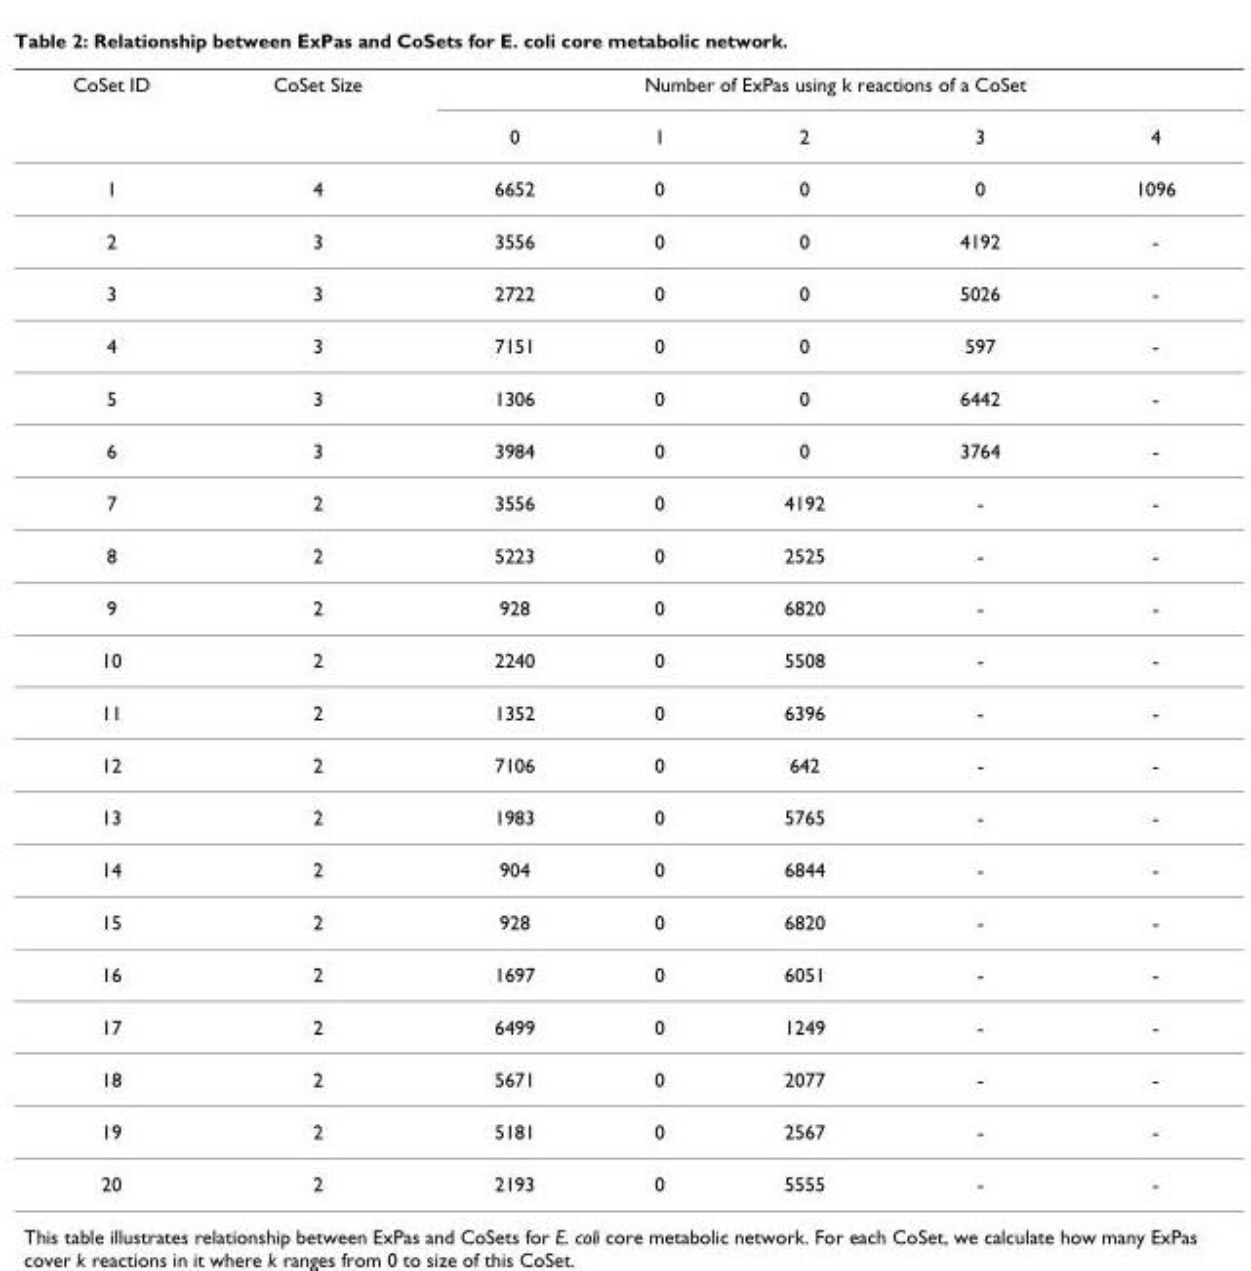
<table><thead><tr><td rowspan="2">CoSet ID</td><td rowspan="2">CoSet Size</td><td colspan="5">Number of ExPas using k reactions of a CoSet</td></tr><tr><td>0</td><td>1</td><td>2</td><td>3</td><td>4</td></tr></thead><tbody><tr><td>1</td><td>4</td><td>6652</td><td>0</td><td>0</td><td>0</td><td>1096</td></tr><tr><td>2</td><td>3</td><td>3556</td><td>0</td><td>0</td><td>4192</td><td>-</td></tr><tr><td>3</td><td>3</td><td>2722</td><td>0</td><td>0</td><td>5026</td><td>-</td></tr><tr><td>4</td><td>3</td><td>7151</td><td>0</td><td>0</td><td>597</td><td>-</td></tr><tr><td>5</td><td>3</td><td>1306</td><td>0</td><td>0</td><td>6442</td><td>-</td></tr><tr><td>6</td><td>3</td><td>3984</td><td>0</td><td>0</td><td>3764</td><td>-</td></tr><tr><td>7</td><td>2</td><td>3556</td><td>0</td><td>4192</td><td>-</td><td>-</td></tr><tr><td>8</td><td>2</td><td>5223</td><td>0</td><td>2525</td><td>-</td><td>-</td></tr><tr><td>9</td><td>2</td><td>928</td><td>0</td><td>6820</td><td>-</td><td>-</td></tr><tr><td>10</td><td>2</td><td>2240</td><td>0</td><td>5508</td><td>-</td><td>-</td></tr><tr><td>11</td><td>2</td><td>1352</td><td>0</td><td>6396</td><td>-</td><td>-</td></tr><tr><td>12</td><td>2</td><td>7106</td><td>0</td><td>642</td><td>-</td><td>-</td></tr><tr><td>13</td><td>2</td><td>1983</td><td>0</td><td>5765</td><td>-</td><td>-</td></tr><tr><td>14</td><td>2</td><td>904</td><td>0</td><td>6844</td><td>-</td><td>-</td></tr><tr><td>15</td><td>2</td><td>928</td><td>0</td><td>6820</td><td>-</td><td>-</td></tr><tr><td>16</td><td>2</td><td>1697</td><td>0</td><td>6051</td><td>-</td><td>-</td></tr><tr><td>17</td><td>2</td><td>6499</td><td>0</td><td>1249</td><td>-</td><td>-</td></tr><tr><td>18</td><td>2</td><td>5671</td><td>0</td><td>2077</td><td>-</td><td>-</td></tr><tr><td>19</td><td>2</td><td>5181</td><td>0</td><td>2567</td><td>-</td><td>-</td></tr><tr><td>20</td><td>2</td><td>2193</td><td>0</td><td>5555</td><td>-</td><td>-</td></tr></tbody></table>